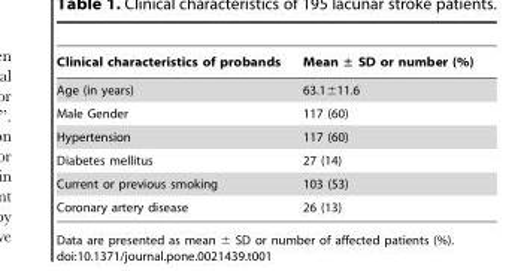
<table><thead><tr><td>Clinical characteristics of probands</td><td>Mean ± SD or number (%)</td></tr></thead><tbody><tr><td>Age (in years)</td><td>63.1±11.6</td></tr><tr><td>Male Gender</td><td>117 (60)</td></tr><tr><td>Hypertension</td><td>117 (60)</td></tr><tr><td>Diabetes mellitus</td><td>27 (14)</td></tr><tr><td>Current or previous smoking</td><td>103 (53)</td></tr><tr><td>Coronary artery disease</td><td>26 (13)</td></tr></tbody></table>